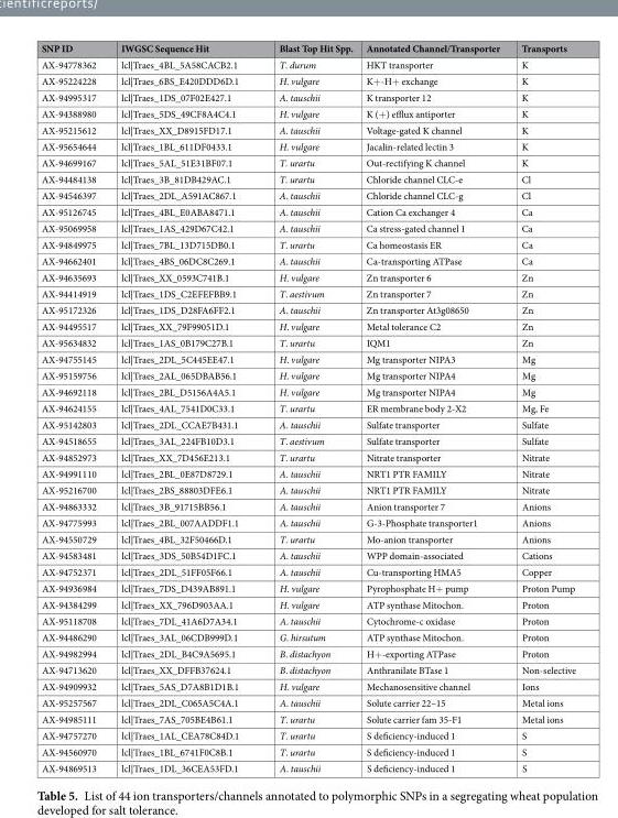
<table><thead><tr><td>SNP ID</td><td>IWGSC Sequence Hit</td><td>Blast Top Hit Spp.</td><td>Annotated Channel/Transporter</td><td>Transports</td></tr></thead><tbody><tr><td>AX-94778362</td><td>lcl|Traes_4BL_5A58CACB2.1</td><td>T. durum</td><td>HKT transporter</td><td>K</td></tr><tr><td>AX-95224228</td><td>lcl|Traes_6BS_E420DDD6D.1</td><td>H. vulgare</td><td>K+-H+ exchange</td><td>K</td></tr><tr><td>AX-94995317</td><td>lcl|Traes_1DS_07F02E427.1</td><td>A. tauschii</td><td>K transporter 12</td><td>K</td></tr><tr><td>AX-94388980</td><td>lcl|Traes_5DS_49CF8A4C4.1</td><td>H. vulgare</td><td>K (+) efflux antiporter</td><td>K</td></tr><tr><td>AX-95215612</td><td>lcl|Traes_XX_D8915FD17.1</td><td>A. tauschii</td><td>Voltage-gated K channel</td><td>K</td></tr><tr><td>AX-95654644</td><td>lcl|Traes_1BL_611DF0433.1</td><td>H. vulgare</td><td>Jacalin-related lectin 3</td><td>K</td></tr><tr><td>AX-94699167</td><td>lcl|Traes_5AL_51E31BF07.1</td><td>T. urartu</td><td>Out-rectifying K channel</td><td>K</td></tr><tr><td>AX-94484138</td><td>lcl|Traes_3B_81DB429AC.1</td><td>T. urartu</td><td>Chloride channel CLC-e</td><td>Cl</td></tr><tr><td>AX-94546397</td><td>lcl|Traes_2DL_A591AC867.1</td><td>A. tauschii</td><td>Chloride channel CLC-g</td><td>Cl</td></tr><tr><td>AX-95126745</td><td>lcl|Traes_4BL_E0ABA8471.1</td><td>A. tauschii</td><td>Cation Ca exchanger 4</td><td>Ca</td></tr><tr><td>AX-95069958</td><td>lcl|Traes_1AS_429D67C42.1</td><td>A. tauschii</td><td>Ca stress-gated channel 1</td><td>Ca</td></tr><tr><td>AX-94849975</td><td>lcl|Traes_7BL_13D715DB0.1</td><td>T. urartu</td><td>Ca homeostasis ER</td><td>Ca</td></tr><tr><td>AX-94662401</td><td>lcl|Traes_4BS_06DC8C269.1</td><td>A. tauschii</td><td>Ca-transporting ATPase</td><td>Ca</td></tr><tr><td>AX-94635693</td><td>lcl|Traes_XX_0593C741B.1</td><td>H. vulgare</td><td>Zn transporter 6</td><td>Zn</td></tr><tr><td>AX-94414919</td><td>lcl|Traes_1DS_C2EFEFBB9.1</td><td>T. aestivum</td><td>Zn transporter 7</td><td>Zn</td></tr><tr><td>AX-95172326</td><td>lcl|Traes_1DS_D28FA6FF2.1</td><td>A. tauschii</td><td>Zn transporter At3g08650</td><td>Zn</td></tr><tr><td>AX-94495517</td><td>lcl|Traes_XX_79F99051D.1</td><td>H. vulgare</td><td>Metal tolerance C2</td><td>Zn</td></tr><tr><td>AX-95634832</td><td>lcl|Traes_1AS_0B179C27B.1</td><td>T. urartu</td><td>IQM1</td><td>Zn</td></tr><tr><td>AX-94755145</td><td>lcl|Traes_2DL_5C445EE47.1</td><td>H. vulgare</td><td>Mg transporter NIPA3</td><td>Mg</td></tr><tr><td>AX-95159756</td><td>lcl|Traes_2AL_065DBAB56.1</td><td>H. vulgare</td><td>Mg transporter NIPA4</td><td>Mg</td></tr><tr><td>AX-94692118</td><td>lcl|Traes_2BL_D5156A4A5.1</td><td>H. vulgare</td><td>Mg transporter NIPA4</td><td>Mg</td></tr><tr><td>AX-94624155</td><td>lcl|Traes_4AL_7541D0C33.1</td><td>T. urartu</td><td>ER membrane body 2-X2</td><td>Mg, Fe</td></tr><tr><td>AX-95142803</td><td>lcl|Traes_2DL_CCAE7B431.1</td><td>A. tauschii</td><td>Sulfate transporter</td><td>Sulfate</td></tr><tr><td>AX-94518655</td><td>lcl|Traes_3AL_224FB10D3.1</td><td>T. aestivum</td><td>Sulfate transporter</td><td>Sulfate</td></tr><tr><td>AX-94852973</td><td>lcl|Traes_XX_7D456E213.1</td><td>T. urartu</td><td>Nitrate transporter</td><td>Nitrate</td></tr><tr><td>AX-94991110</td><td>lcl|Traes_2BL_0E87D8729.1</td><td>A. tauschii</td><td>NRT1 PTR FAMILY</td><td>Nitrate</td></tr><tr><td>AX-95216700</td><td>lcl|Traes_2BS_88803DFE6.1</td><td>A. tauschii</td><td>NRT1 PTR FAMILY</td><td>Nitrate</td></tr><tr><td>AX-94863332</td><td>lcl|Traes_3B_91715BB56.1</td><td>A. tauschii</td><td>Anion transporter 7</td><td>Anions</td></tr><tr><td>AX-94775993</td><td>lcl|Traes_2BL_007AADDF1.1</td><td>A. tauschii</td><td>G-3-Phosphate transporter1</td><td>Anions</td></tr><tr><td>AX-94550729</td><td>lcl|Traes_4BL_32F50466D.1</td><td>T. urartu</td><td>Mo-anion transporter</td><td>Anions</td></tr><tr><td>AX-94583481</td><td>lcl|Traes_3DS_50B54D1FC.1</td><td>A. tauschii</td><td>WPP domain-associated</td><td>Cations</td></tr><tr><td>AX-94752371</td><td>lcl|Traes_2DL_51FF05F66.1</td><td>A. tauschii</td><td>Cu-transporting HMA5</td><td>Copper</td></tr><tr><td>AX-94936984</td><td>lcl|Traes_7DS_D439AB891.1</td><td>H. vulgare</td><td>Pyrophosphate H+ pump</td><td>Proton Pump</td></tr><tr><td>AX-94384299</td><td>lcl|Traes_XX_796D903AA.1</td><td>H. vulgare</td><td>ATP synthase Mitochon.</td><td>Proton</td></tr><tr><td>AX-95118708</td><td>lcl|Traes_7DL_41A6D7A34.1</td><td>A. tauschii</td><td>Cytochrome-c oxidase</td><td>Proton</td></tr><tr><td>AX-94486290</td><td>lcl|Traes_3AL_06CDB999D.1</td><td>G. hirsutum</td><td>ATP synthase Mitochon.</td><td>Proton</td></tr><tr><td>AX-94982994</td><td>lcl|Traes_2DL_B4C9A5695.1</td><td>B. distachyon</td><td>H+-exporting ATPase</td><td>Proton</td></tr><tr><td>AX-94713620</td><td>lcl|Traes_XX_DFFB37624.1</td><td>B. distachyon</td><td>Anthranilate BTase 1</td><td>Non-selective</td></tr><tr><td>AX-94909932</td><td>lcl|Traes_5AS_D7A8B1D1B.1</td><td>H. vulgare</td><td>Mechanosensitive channel</td><td>Ions</td></tr><tr><td>AX-95257567</td><td>lcl|Traes_2DL_C065A5C4A.1</td><td>A. tauschii</td><td>Solute carrier 22–15</td><td>Metal ions</td></tr><tr><td>AX-94985111</td><td>lcl|Traes_7AS_705BE4B61.1</td><td>T. urartu</td><td>Solute carrier fam 35-F1</td><td>Metal ions</td></tr><tr><td>AX-94757270</td><td>lcl|Traes_1AL_CEA78C84D.1</td><td>T. urartu</td><td>S deficiency-induced 1</td><td>S</td></tr><tr><td>AX-94560970</td><td>lcl|Traes_1BL_6741F0C8B.1</td><td>T. urartu</td><td>S deficiency-induced 1</td><td>S</td></tr><tr><td>AX-94869513</td><td>lcl|Traes_1DL_36CEA53FD.1</td><td>A. tauschii</td><td>S deficiency-induced 1</td><td>S</td></tr></tbody></table>